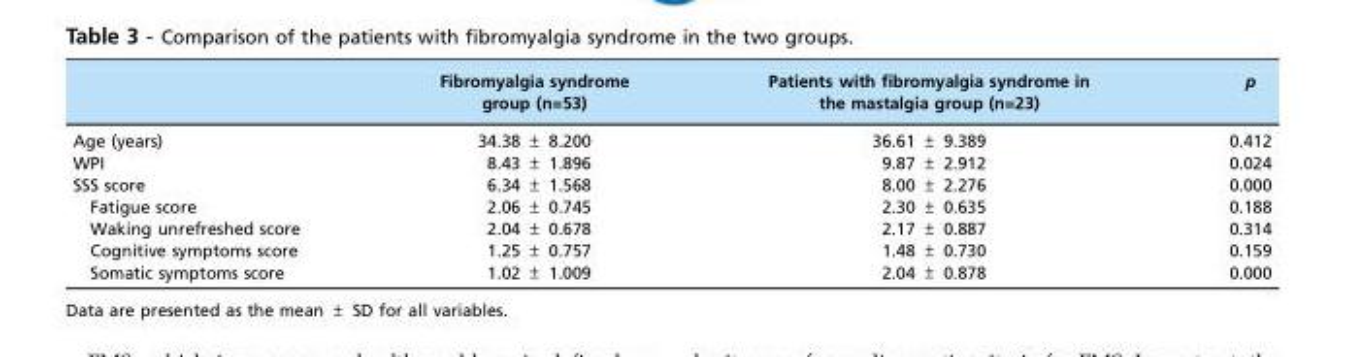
<table><thead><tr><td></td><td>Fibromyalgia syndrome group (n=53)</td><td>Patients with fibromyalgia syndrome in the mastalgia group (n=23)</td><td>p</td></tr></thead><tbody><tr><td>Age (years)</td><td>34.38 ± 8.200</td><td>36.61 ± 9.389</td><td>0.412</td></tr><tr><td>WPI</td><td>8.43 ± 1.896</td><td>9.87 ± 2.912</td><td>0.024</td></tr><tr><td>SSS score</td><td>6.34 ± 1.568</td><td>8.00 ± 2.276</td><td>0.000</td></tr><tr><td>Fatigue score</td><td>2.06 ± 0.745</td><td>2.30 ± 0.635</td><td>0.188</td></tr><tr><td>Waking unrefreshed score</td><td>2.04 ± 0.678</td><td>2.17 ± 0.887</td><td>0.314</td></tr><tr><td>Cognitive symptoms score</td><td>1.25 ± 0.757</td><td>1.48 ± 0.730</td><td>0.159</td></tr><tr><td>Somatic symptoms score</td><td>1.02 ± 1.009</td><td>2.04 ± 0.878</td><td>0.000</td></tr></tbody></table>